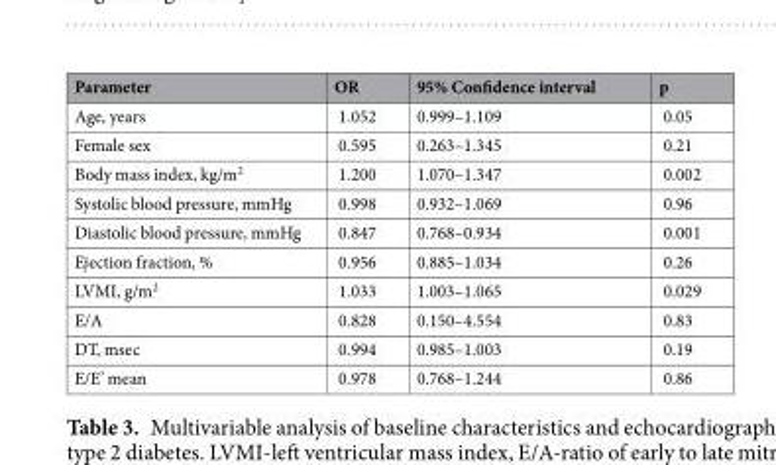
<table><thead><tr><td>Parameter</td><td>OR</td><td>95% Confidence interval</td><td>p</td></tr></thead><tbody><tr><td>Age, years</td><td>1.052</td><td>0.999–1.109</td><td>0.05</td></tr><tr><td>Female sex</td><td>0.595</td><td>0.263–1.345</td><td>0.21</td></tr><tr><td>Body mass index, kg/m<sup>2</sup></td><td>1.200</td><td>1.070–1.347</td><td>0.002</td></tr><tr><td>Systolic blood pressure, mmHg</td><td>0.998</td><td>0.932–1.069</td><td>0.96</td></tr><tr><td>Diastolic blood pressure, mmHg</td><td>0.847</td><td>0.768–0.934</td><td>0.001</td></tr><tr><td>Ejection fraction, %</td><td>0.956</td><td>0.885–1.034</td><td>0.26</td></tr><tr><td>LVMI, g/m<sup>2</sup></td><td>1.033</td><td>1.003–1.065</td><td>0.029</td></tr><tr><td>E/A</td><td>0.828</td><td>0.150–4.554</td><td>0.83</td></tr><tr><td>DT, msec</td><td>0.994</td><td>0.985–1.003</td><td>0.19</td></tr><tr><td>E/E’ mean</td><td>0.978</td><td>0.768–1.244</td><td>0.86</td></tr></tbody></table>